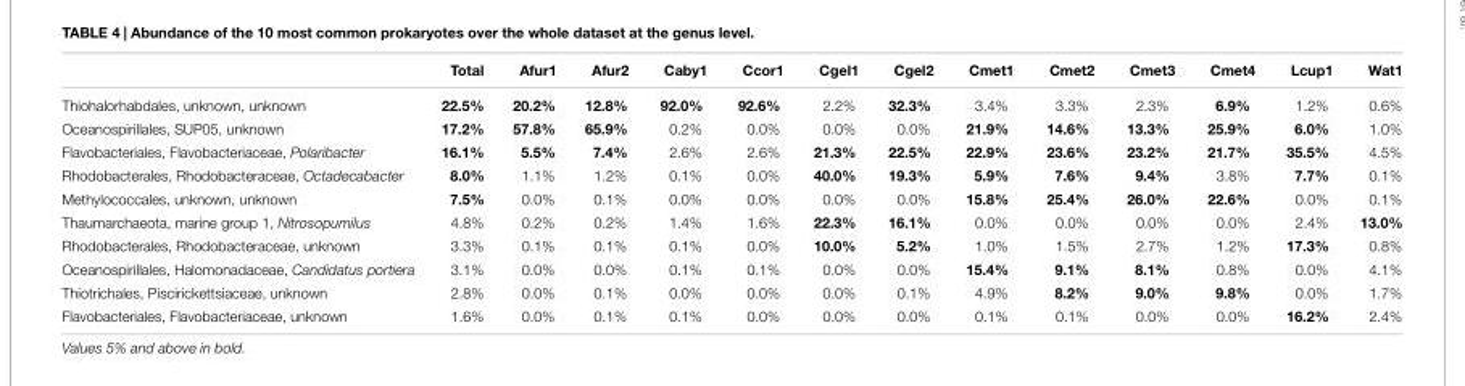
<table><thead><tr><td></td><td>Total</td><td>Afur1</td><td>Afur2</td><td>Caby1</td><td>Ccor1</td><td>Cgel1</td><td>Cgel2</td><td>Cmet1</td><td>Cmet2</td><td>Cmet3</td><td>Cmet4</td><td>Lcup1</td><td>Wat1</td></tr></thead><tbody><tr><td>Thiohalorhabdales, unknown, unknown</td><td>22.5%</td><td>20.2%</td><td>12.8%</td><td>92.0%</td><td>92.6%</td><td>2.2%</td><td>32.3%</td><td>3.4%</td><td>3.3%</td><td>2.3%</td><td>6.9%</td><td>1.2%</td><td>0.6%</td></tr><tr><td>Oceanospirillales, SUP05, unknown</td><td>17.2%</td><td>57.8%</td><td>65.9%</td><td>0.2%</td><td>0.0%</td><td>0.0%</td><td>0.0%</td><td>21.9%</td><td>14.6%</td><td>13.3%</td><td>25.9%</td><td>6.0%</td><td>1.0%</td></tr><tr><td>Flavobacteriales, Flavobacteriaceae, Polaribacter</td><td>16.1%</td><td>5.5%</td><td>7.4%</td><td>2.6%</td><td>2.6%</td><td>21.3%</td><td>22.5%</td><td>22.9%</td><td>23.6%</td><td>23.2%</td><td>21.7%</td><td>35.5%</td><td>4.5%</td></tr><tr><td>Rhodobacterales, Rhodobacteraceae, Octadecabacter</td><td>8.0%</td><td>1.1%</td><td>1.2%</td><td>0.1%</td><td>0.0%</td><td>40.0%</td><td>19.3%</td><td>5.9%</td><td>7.6%</td><td>9.4%</td><td>3.8%</td><td>7.7%</td><td>0.1%</td></tr><tr><td>Methylococcales, unknown, unknown</td><td>7.5%</td><td>0.0%</td><td>0.1%</td><td>0.0%</td><td>0.0%</td><td>0.0%</td><td>0.0%</td><td>15.8%</td><td>25.4%</td><td>26.0%</td><td>22.6%</td><td>0.0%</td><td>0.1%</td></tr><tr><td>Thaumarchaeota, marine group 1, Nitrosopumilus</td><td>4.8%</td><td>0.2%</td><td>0.2%</td><td>1.4%</td><td>1.6%</td><td>22.3%</td><td>16.1%</td><td>0.0%</td><td>0.0%</td><td>0.0%</td><td>0.0%</td><td>2.4%</td><td>13.0%</td></tr><tr><td>Rhodobacterales, Rhodobacteraceae, unknown</td><td>3.3%</td><td>0.1%</td><td>0.1%</td><td>0.1%</td><td>0.0%</td><td>10.0%</td><td>5.2%</td><td>1.0%</td><td>1.5%</td><td>2.7%</td><td>1.2%</td><td>17.3%</td><td>0.8%</td></tr><tr><td>Oceanospirillales, Halomonadaceae, Candidatus portiera</td><td>3.1%</td><td>0.0%</td><td>0.0%</td><td>0.1%</td><td>0.1%</td><td>0.0%</td><td>0.0%</td><td>15.4%</td><td>9.1%</td><td>8.1%</td><td>0.8%</td><td>0.0%</td><td>4.1%</td></tr><tr><td>Thiotrichales, Piscirickettsiaceae, unknown</td><td>2.8%</td><td>0.0%</td><td>0.1%</td><td>0.0%</td><td>0.0%</td><td>0.0%</td><td>0.1%</td><td>4.9%</td><td>8.2%</td><td>9.0%</td><td>9.8%</td><td>0.0%</td><td>1.7%</td></tr><tr><td>Flavobacteriales, Flavobacteriaceae, unknown</td><td>1.6%</td><td>0.0%</td><td>0.1%</td><td>0.1%</td><td>0.0%</td><td>0.0%</td><td>0.0%</td><td>0.1%</td><td>0.1%</td><td>0.0%</td><td>0.0%</td><td>16.2%</td><td>2.4%</td></tr></tbody></table>